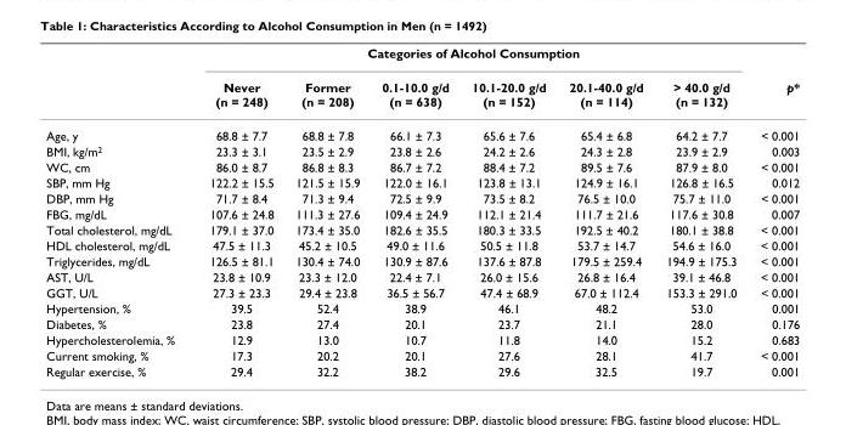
<table><thead><tr><td rowspan="2"></td><td colspan="6">Categories of Alcohol Consumption</td><td rowspan="2">p*</td></tr><tr><td>Never (n = 248)</td><td>Former (n = 208)</td><td>0.1-10.0 g/d (n = 638)</td><td>10.1-20.0 g/d (n = 152)</td><td>20.1-40.0 g/d (n = 114)</td><td>&gt; 40.0 g/d (n = 132)</td></tr></thead><tbody><tr><td>Age, y</td><td>68.8 ± 7.7</td><td>68.8 ± 7.8</td><td>66.1 ± 7.3</td><td>65.6 ± 7.6</td><td>65.4 ± 6.8</td><td>64.2 ± 7.7</td><td>&lt; 0.001</td></tr><tr><td>BMI, kg/m<sup>2</sup></td><td>23.3 ± 3.1</td><td>23.5 ± 2.9</td><td>23.8 ± 2.6</td><td>24.2 ± 2.6</td><td>24.3 ± 2.8</td><td>23.9 ± 2.9</td><td>0.003</td></tr><tr><td>WC, cm</td><td>86.0 ± 8.7</td><td>86.8 ± 8.3</td><td>86.7 ± 7.2</td><td>88.4 ± 7.2</td><td>89.5 ± 7.6</td><td>87.9 ± 8.0</td><td>&lt; 0.001</td></tr><tr><td>SBP, mm Hg</td><td>122.2 ± 15.5</td><td>121.5 ± 15.9</td><td>122.0 ± 16.1</td><td>123.8 ± 13.1</td><td>124.9 ± 16.1</td><td>126.8 ± 16.5</td><td>0.012</td></tr><tr><td>DBP, mm Hg</td><td>71.7 ± 8.4</td><td>71.3 ± 9.4</td><td>72.5 ± 9.9</td><td>73.5 ± 8.2</td><td>76.5 ± 10.0</td><td>75.7 ± 11.0</td><td>&lt; 0.001</td></tr><tr><td>FBG, mg/dL</td><td>107.6 ± 24.8</td><td>111.3 ± 27.6</td><td>109.4 ± 24.9</td><td>112.1 ± 21.4</td><td>111.7 ± 21.6</td><td>117.6 ± 30.8</td><td>0.007</td></tr><tr><td>Total cholesterol, mg/dL</td><td>179.1 ± 37.0</td><td>173.4 ± 35.0</td><td>182.6 ± 35.5</td><td>180.3 ± 33.5</td><td>192.5 ± 40.2</td><td>180.1 ± 38.8</td><td>&lt; 0.001</td></tr><tr><td>HDL cholesterol, mg/dL</td><td>47.5 ± 11.3</td><td>45.2 ± 10.5</td><td>49.0 ± 11.6</td><td>50.5 ± 11.8</td><td>53.7 ± 14.7</td><td>54.6 ± 16.0</td><td>&lt; 0.001</td></tr><tr><td>Triglycerides, mg/dL</td><td>126.5 ± 81.1</td><td>130.4 ± 74.0</td><td>130.9 ± 87.6</td><td>137.6 ± 87.8</td><td>179.5 ± 259.4</td><td>194.9 ± 175.3</td><td>&lt; 0.001</td></tr><tr><td>AST, U/L</td><td>23.8 ± 10.9</td><td>23.3 ± 12.0</td><td>22.4 ± 7.1</td><td>26.0 ± 15.6</td><td>26.8 ± 16.4</td><td>39.1 ± 46.8</td><td>&lt; 0.001</td></tr><tr><td>GGT, U/L</td><td>27.3 ± 23.3</td><td>29.4 ± 23.8</td><td>36.5 ± 56.7</td><td>47.4 ± 68.9</td><td>67.0 ± 112.4</td><td>153.3 ± 291.0</td><td>&lt; 0.001</td></tr><tr><td>Hypertension, %</td><td>39.5</td><td>52.4</td><td>38.9</td><td>46.1</td><td>48.2</td><td>53.0</td><td>0.001</td></tr><tr><td>Diabetes, %</td><td>23.8</td><td>27.4</td><td>20.1</td><td>23.7</td><td>21.1</td><td>28.0</td><td>0.176</td></tr><tr><td>Hypercholesterolemia, %</td><td>12.9</td><td>13.0</td><td>10.7</td><td>11.8</td><td>14.0</td><td>15.2</td><td>0.683</td></tr><tr><td>Current smoking, %</td><td>17.3</td><td>20.2</td><td>20.1</td><td>27.6</td><td>28.1</td><td>41.7</td><td>&lt; 0.001</td></tr><tr><td>Regular exercise, %</td><td>29.4</td><td>32.2</td><td>38.2</td><td>29.6</td><td>32.5</td><td>19.7</td><td>0.001</td></tr></tbody></table>